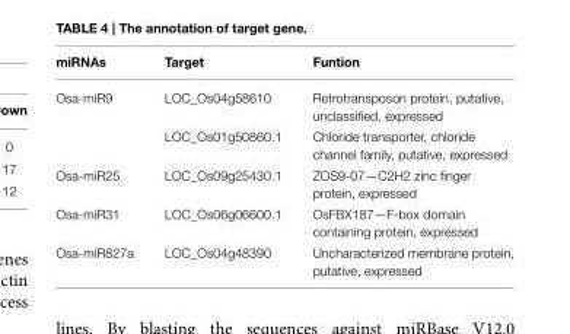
<table><thead><tr><td>miRNAs</td><td>Target</td><td>Funtion</td></tr></thead><tbody><tr><td rowspan="2">Osa-miR9</td><td>LOC_Os04g58610</td><td>Retrotransposon protein, putative, unclassified, expressed</td></tr><tr><td>LOC_Os01g50860.1</td><td>Chloride transporter, chloride channel family, putative, expressed</td></tr><tr><td>Osa-miR25</td><td>LOC_Os09g25430.1</td><td>ZOS9-07—C2H2 zinc finger protein, expressed</td></tr><tr><td>Osa-miR31</td><td>LOC_Os06g06600.1</td><td>OsFBX187—F-box domain containing protein, expressed</td></tr><tr><td>Osa-miR827a</td><td>LOC_Os04g48390</td><td>Uncharacterized membrane protein, putative, expressed</td></tr></tbody></table>